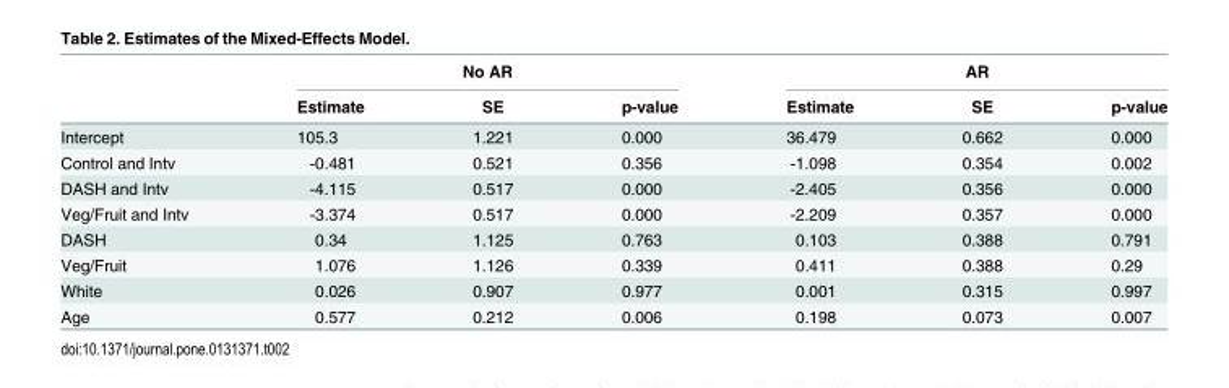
<table><thead><tr><td rowspan="2"></td><td colspan="3">No AR</td><td colspan="3">AR</td></tr><tr><td>Estimate</td><td>SE</td><td>p-value</td><td>Estimate</td><td>SE</td><td>p-value</td></tr></thead><tbody><tr><td>Intercept</td><td>105.3</td><td>1.221</td><td>0.000</td><td>36.479</td><td>0.662</td><td>0.000</td></tr><tr><td>Control and Intv</td><td>-0.481</td><td>0.521</td><td>0.356</td><td>-1.098</td><td>0.354</td><td>0.002</td></tr><tr><td>DASH and Intv</td><td>-4.115</td><td>0.517</td><td>0.000</td><td>-2.405</td><td>0.356</td><td>0.000</td></tr><tr><td>Veg/Fruit and Intv</td><td>-3.374</td><td>0.517</td><td>0.000</td><td>-2.209</td><td>0.357</td><td>0.000</td></tr><tr><td>DASH</td><td>0.34</td><td>1.125</td><td>0.763</td><td>0.103</td><td>0.388</td><td>0.791</td></tr><tr><td>Veg/Fruit</td><td>1.076</td><td>1.126</td><td>0.339</td><td>0.411</td><td>0.388</td><td>0.29</td></tr><tr><td>White</td><td>0.026</td><td>0.907</td><td>0.977</td><td>0.001</td><td>0.315</td><td>0.997</td></tr><tr><td>Age</td><td>0.577</td><td>0.212</td><td>0.006</td><td>0.198</td><td>0.073</td><td>0.007</td></tr></tbody></table>